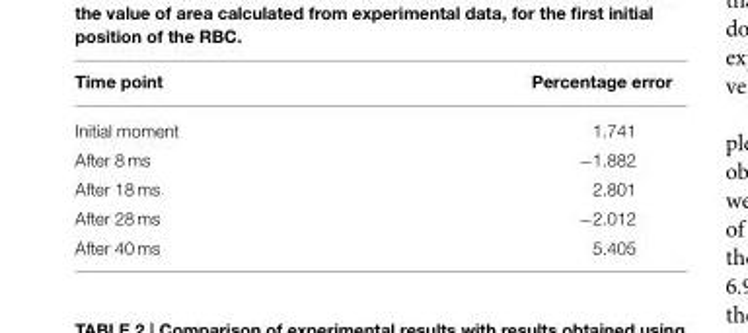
<table><thead><tr><td>Time point</td><td>Percentage error</td></tr></thead><tbody><tr><td>Initial moment</td><td>1.741</td></tr><tr><td>After 8 ms</td><td>−1.882</td></tr><tr><td>After 18 ms</td><td>2.801</td></tr><tr><td>After 28 ms</td><td>−2.012</td></tr><tr><td>After 40 ms</td><td>5.405</td></tr></tbody></table>